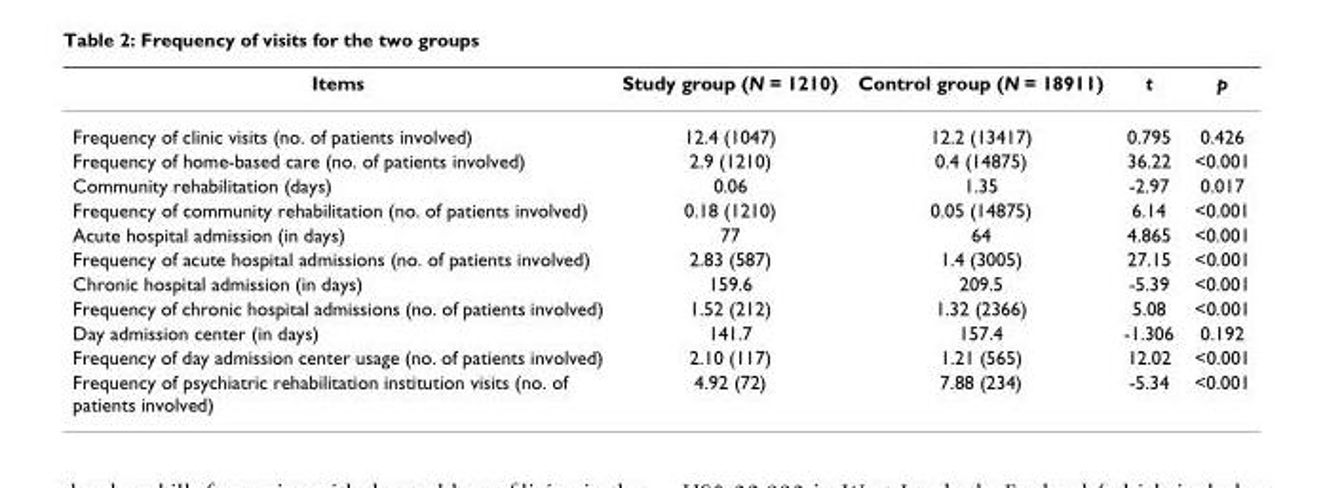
<table><thead><tr><td>Items</td><td>Study group (N = 1210)</td><td>Control group (N = 18911)</td><td>t</td><td>p</td></tr></thead><tbody><tr><td>Frequency of clinic visits (no. of patients involved)</td><td>12.4 (1047)</td><td>12.2 (13417)</td><td>0.795</td><td>0.426</td></tr><tr><td>Frequency of home-based care (no. of patients involved)</td><td>2.9 (1210)</td><td>0.4 (14875)</td><td>36.22</td><td>&lt;0.001</td></tr><tr><td>Community rehabilitation (days)</td><td>0.06</td><td>1.35</td><td>-2.97</td><td>0.017</td></tr><tr><td>Frequency of community rehabilitation (no. of patients involved)</td><td>0.18 (1210)</td><td>0.05 (14875)</td><td>6.14</td><td>&lt;0.001</td></tr><tr><td>Acute hospital admission (in days)</td><td>77</td><td>64</td><td>4.865</td><td>&lt;0.001</td></tr><tr><td>Frequency of acute hospital admissions (no. of patients involved)</td><td>2.83 (587)</td><td>1.4 (3005)</td><td>27.15</td><td>&lt;0.001</td></tr><tr><td>Chronic hospital admission (in days)</td><td>159.6</td><td>209.5</td><td>-5.39</td><td>&lt;0.001</td></tr><tr><td>Frequency of chronic hospital admissions (no. of patients involved)</td><td>1.52 (212)</td><td>1.32 (2366)</td><td>5.08</td><td>&lt;0.001</td></tr><tr><td>Day admission center (in days)</td><td>141.7</td><td>157.4</td><td>-1.306</td><td>0.192</td></tr><tr><td>Frequency of day admission center usage (no. of patients involved)</td><td>2.10 (117)</td><td>1.21 (565)</td><td>12.02</td><td>&lt;0.001</td></tr><tr><td>Frequency of psychiatric rehabilitation institution visits (no. of patients involved)</td><td>4.92 (72)</td><td>7.88 (234)</td><td>-5.34</td><td>&lt;0.001</td></tr></tbody></table>